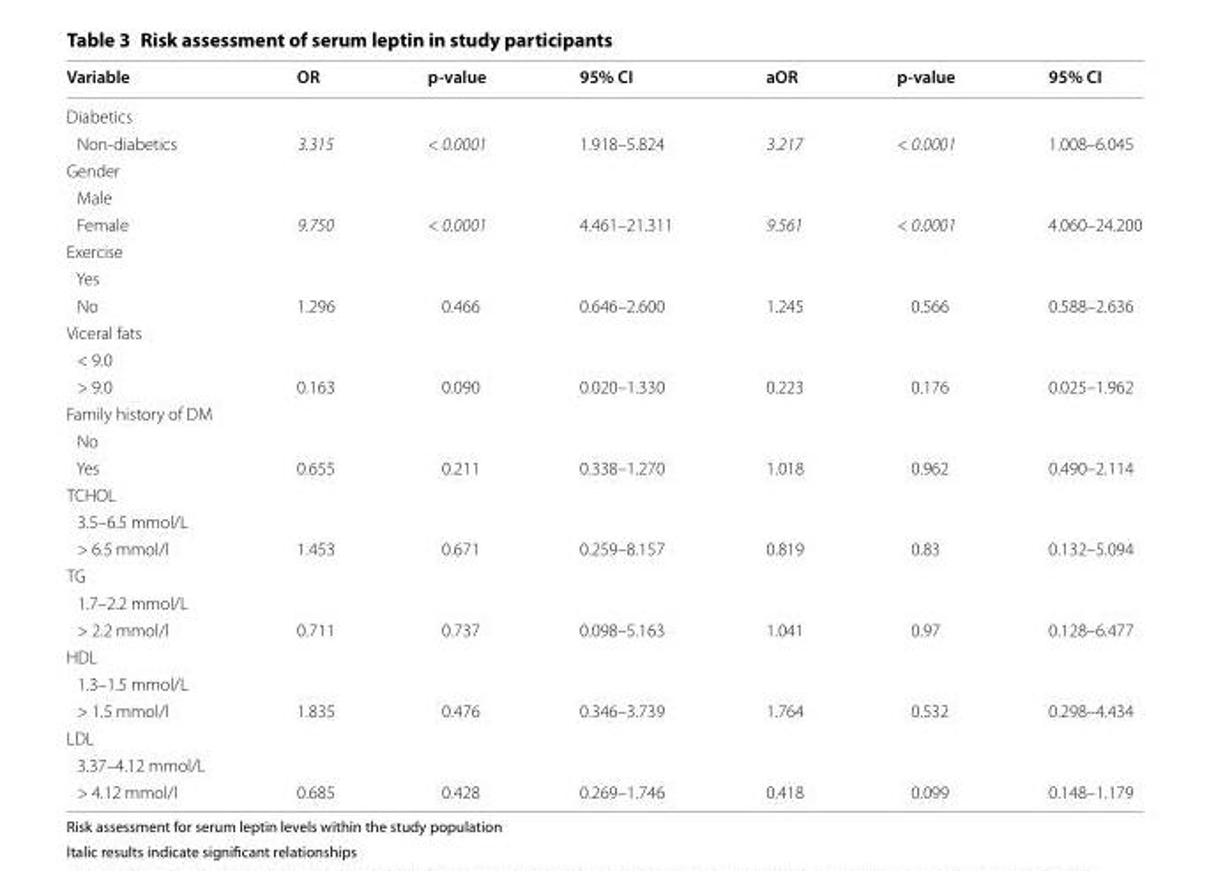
<table><thead><tr><td>Variable</td><td>OR</td><td>p-value</td><td>95% CI</td><td>aOR</td><td>p-value</td><td>95% CI</td></tr></thead><tbody><tr><td colspan="7">Diabetics</td></tr><tr><td>Non‑diabetics</td><td>3.315</td><td>&lt; 0.0001</td><td>1.918–5.824</td><td>3.217</td><td>&lt; 0.0001</td><td>1.008–6.045</td></tr><tr><td colspan="7">Gender</td></tr><tr><td colspan="7">Male</td></tr><tr><td>Female</td><td>9.750</td><td>&lt; 0.0001</td><td>4.461–21.311</td><td>9.561</td><td>&lt; 0.0001</td><td>4.060–24.200</td></tr><tr><td colspan="7">Exercise</td></tr><tr><td colspan="7">Yes</td></tr><tr><td>No</td><td>1.296</td><td>0.466</td><td>0.646–2.600</td><td>1.245</td><td>0.566</td><td>0.588–2.636</td></tr><tr><td colspan="7">Viceral fats</td></tr><tr><td colspan="7">&lt; 9.0</td></tr><tr><td>&gt; 9.0</td><td>0.163</td><td>0.090</td><td>0.020–1.330</td><td>0.223</td><td>0.176</td><td>0.025–1.962</td></tr><tr><td colspan="7">Family history of DM</td></tr><tr><td colspan="7">No</td></tr><tr><td>Yes</td><td>0.655</td><td>0.211</td><td>0.338–1.270</td><td>1.018</td><td>0.962</td><td>0.490–2.114</td></tr><tr><td colspan="7">TCHOL</td></tr><tr><td colspan="7">3.5–6.5 mmol/L</td></tr><tr><td>&gt; 6.5 mmol/l</td><td>1.453</td><td>0.671</td><td>0.259–8.157</td><td>0.819</td><td>0.83</td><td>0.132–5.094</td></tr><tr><td colspan="7">TG</td></tr><tr><td colspan="7">1.7–2.2 mmol/L</td></tr><tr><td>&gt; 2.2 mmol/l</td><td>0.711</td><td>0.737</td><td>0.098–5.163</td><td>1.041</td><td>0.97</td><td>0.128–6.477</td></tr><tr><td colspan="7">HDL</td></tr><tr><td colspan="7">1.3–1.5 mmol/L</td></tr><tr><td>&gt; 1.5 mmol/l</td><td>1.835</td><td>0.476</td><td>0.346–3.739</td><td>1.764</td><td>0.532</td><td>0.298–4.434</td></tr><tr><td colspan="7">LDL</td></tr><tr><td colspan="7">3.37–4.12 mmol/L</td></tr><tr><td>&gt; 4.12 mmol/l</td><td>0.685</td><td>0.428</td><td>0.269–1.746</td><td>0.418</td><td>0.099</td><td>0.148–1.179</td></tr></tbody></table>